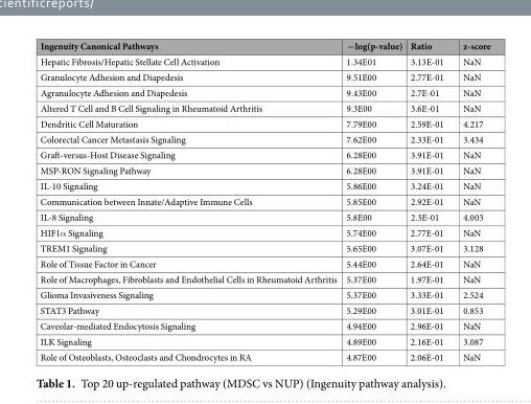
<table><thead><tr><td>Ingenuity Canonical Pathways</td><td>−log(p-value)</td><td>Ratio</td><td>z-score</td></tr></thead><tbody><tr><td>Hepatic Fibrosis/Hepatic Stellate Cell Activation</td><td>1.34E01</td><td>3.13E-01</td><td>NaN</td></tr><tr><td>Granulocyte Adhesion and Diapedesis</td><td>9.51E00</td><td>2.77E-01</td><td>NaN</td></tr><tr><td>Agranulocyte Adhesion and Diapedesis</td><td>9.43E00</td><td>2.7E-01</td><td>NaN</td></tr><tr><td>Altered T Cell and B Cell Signaling in Rheumatoid Arthritis</td><td>9.3E00</td><td>3.6E-01</td><td>NaN</td></tr><tr><td>Dendritic Cell Maturation</td><td>7.79E00</td><td>2.59E-01</td><td>4.217</td></tr><tr><td>Colorectal Cancer Metastasis Signaling</td><td>7.62E00</td><td>2.33E-01</td><td>3.434</td></tr><tr><td>Graft-versus-Host Disease Signaling</td><td>6.28E00</td><td>3.91E-01</td><td>NaN</td></tr><tr><td>MSP-RON Signaling Pathway</td><td>6.28E00</td><td>3.91E-01</td><td>NaN</td></tr><tr><td>IL-10 Signaling</td><td>5.86E00</td><td>3.24E-01</td><td>NaN</td></tr><tr><td>Communication between Innate/Adaptive Immune Cells</td><td>5.85E00</td><td>2.92E-01</td><td>NaN</td></tr><tr><td>IL-8 Signaling</td><td>5.8E00</td><td>2.3E-01</td><td>4.003</td></tr><tr><td>HIF1α Signaling</td><td>5.74E00</td><td>2.77E-01</td><td>NaN</td></tr><tr><td>TREM1 Signaling</td><td>5.65E00</td><td>3.07E-01</td><td>3.128</td></tr><tr><td>Role of Tissue Factor in Cancer</td><td>5.44E00</td><td>2.64E-01</td><td>NaN</td></tr><tr><td>Role of Macrophages, Fibroblasts and Endothelial Cells in Rheumatoid Arthritis</td><td>5.37E00</td><td>1.97E-01</td><td>NaN</td></tr><tr><td>Glioma Invasiveness Signaling</td><td>5.37E00</td><td>3.33E-01</td><td>2.524</td></tr><tr><td>STAT3 Pathway</td><td>5.29E00</td><td>3.01E-01</td><td>0.853</td></tr><tr><td>Caveolar-mediated Endocytosis Signaling</td><td>4.94E00</td><td>2.96E-01</td><td>NaN</td></tr><tr><td>ILK Signaling</td><td>4.89E00</td><td>2.16E-01</td><td>3.087</td></tr><tr><td>Role of Osteoblasts, Osteoclasts and Chondrocytes in RA</td><td>4.87E00</td><td>2.06E-01</td><td>NaN</td></tr></tbody></table>